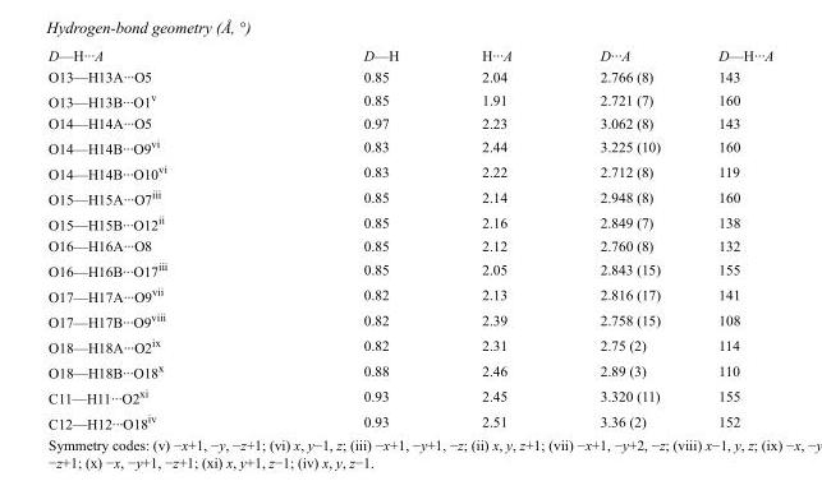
<table><tbody><tr><td>D—H···A</td><td>D—H</td><td>H···A</td><td>D···A</td><td>D—H···A</td></tr><tr><td>O13—H13A···O5</td><td>0.85</td><td>2.04</td><td>2.766 (8)</td><td>143</td></tr><tr><td>O13—H13B···O1<sup>v</sup></td><td>0.85</td><td>1.91</td><td>2.721 (7)</td><td>160</td></tr><tr><td>O14—H14A···O5</td><td>0.97</td><td>2.23</td><td>3.062 (8)</td><td>143</td></tr><tr><td>O14—H14B···O9<sup>vi</sup></td><td>0.83</td><td>2.44</td><td>3.225 (10)</td><td>160</td></tr><tr><td>O14—H14B···O10<sup>vi</sup></td><td>0.83</td><td>2.22</td><td>2.712 (8)</td><td>119</td></tr><tr><td>O15—H15A···O7<sup>iii</sup></td><td>0.85</td><td>2.14</td><td>2.948 (8)</td><td>160</td></tr><tr><td>O15—H15B···O12<sup>ii</sup></td><td>0.85</td><td>2.16</td><td>2.849 (7)</td><td>138</td></tr><tr><td>O16—H16A···O8</td><td>0.85</td><td>2.12</td><td>2.760 (8)</td><td>132</td></tr><tr><td>O16—H16B···O17<sup>iii</sup></td><td>0.85</td><td>2.05</td><td>2.843 (15)</td><td>155</td></tr><tr><td>O17—H17A···O9<sup>vii</sup></td><td>0.82</td><td>2.13</td><td>2.816 (17)</td><td>141</td></tr><tr><td>O17—H17B···O9<sup>viii</sup></td><td>0.82</td><td>2.39</td><td>2.758 (15)</td><td>108</td></tr><tr><td>O18—H18A···O2<sup>ix</sup></td><td>0.82</td><td>2.31</td><td>2.75 (2)</td><td>114</td></tr><tr><td>O18—H18B···O18<sup>x</sup></td><td>0.88</td><td>2.46</td><td>2.89 (3)</td><td>110</td></tr><tr><td>C11—H11···O2<sup>xi</sup></td><td>0.93</td><td>2.45</td><td>3.320 (11)</td><td>155</td></tr><tr><td>C12—H12···O18<sup>iv</sup></td><td>0.93</td><td>2.51</td><td>3.36 (2)</td><td>152</td></tr></tbody></table>